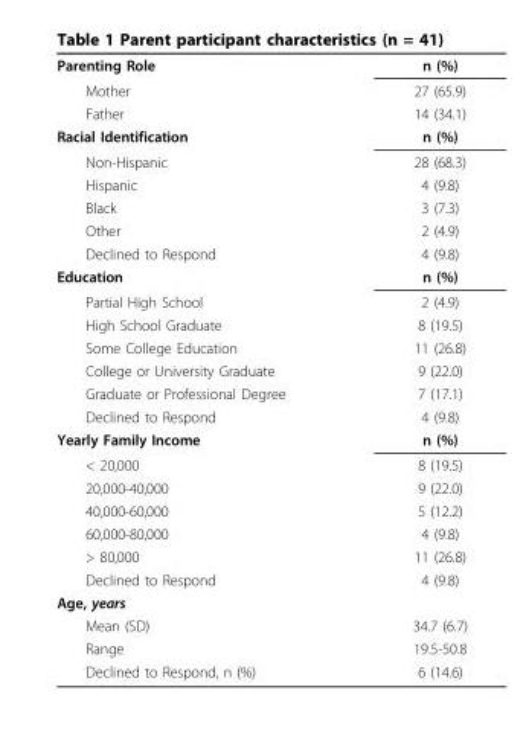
<table><tbody><tr><td>Parenting Role</td><td>n (%)</td></tr><tr><td>Mother</td><td>27 (65.9)</td></tr><tr><td>Father</td><td>14 (34.1)</td></tr><tr><td>Racial Identification</td><td>n (%)</td></tr><tr><td>Non-Hispanic</td><td>28 (68.3)</td></tr><tr><td>Hispanic</td><td>4 (9.8)</td></tr><tr><td>Black</td><td>3 (7.3)</td></tr><tr><td>Other</td><td>2 (4.9)</td></tr><tr><td>Declined to Respond</td><td>4 (9.8)</td></tr><tr><td>Education</td><td>n (%)</td></tr><tr><td>Partial High School</td><td>2 (4.9)</td></tr><tr><td>High School Graduate</td><td>8 (19.5)</td></tr><tr><td>Some College Education</td><td>11 (26.8)</td></tr><tr><td>College or University Graduate</td><td>9 (22.0)</td></tr><tr><td>Graduate or Professional Degree</td><td>7 (17.1)</td></tr><tr><td>Declined to Respond</td><td>4 (9.8)</td></tr><tr><td>Yearly Family Income</td><td>n (%)</td></tr><tr><td>&lt; 20,000</td><td>8 (19.5)</td></tr><tr><td>20,000-40,000</td><td>9 (22.0)</td></tr><tr><td>40,000-60,000</td><td>5 (12.2)</td></tr><tr><td>60,000-80,000</td><td>4 (9.8)</td></tr><tr><td>&gt; 80,000</td><td>11 (26.8)</td></tr><tr><td>Declined to Respond</td><td>4 (9.8)</td></tr><tr><td colspan="2">Age, years</td></tr><tr><td>Mean (SD)</td><td>34.7 (6.7)</td></tr><tr><td>Range</td><td>19.5-50.8</td></tr><tr><td>Declined to Respond, n (%)</td><td>6 (14.6)</td></tr></tbody></table>